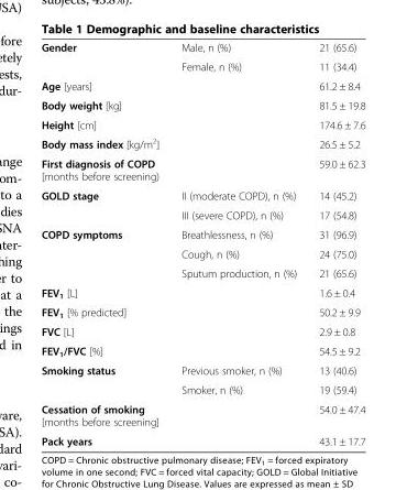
<table><tbody><tr><td rowspan="2">Gender</td><td>Male, n (%)</td><td>21 (65.6)</td></tr><tr><td>Female, n (%)</td><td>11 (34.4)</td></tr><tr><td>Age [years]</td><td></td><td>61.2 ± 8.4</td></tr><tr><td>Body weight [kg]</td><td></td><td>81.5 ± 19.8</td></tr><tr><td>Height [cm]</td><td></td><td>174.6 ± 7.6</td></tr><tr><td>Body mass index [kg/m<sup>2</sup>]</td><td></td><td>26.5 ± 5.2</td></tr><tr><td>First diagnosis of COPD [months before screening)</td><td></td><td>59.0 ± 62.3</td></tr><tr><td rowspan="2">GOLD stage</td><td>II (moderate COPD), n (%)</td><td>14 (45.2)</td></tr><tr><td>III (severe COPD), n (%)</td><td>17 (54.8)</td></tr><tr><td rowspan="3">COPD symptoms</td><td>Breathlessness, n (%)</td><td>31 (96.9)</td></tr><tr><td>Cough, n (%)</td><td>24 (75.0)</td></tr><tr><td>Sputum production, n (%)</td><td>21 (65.6)</td></tr><tr><td>FEV<sub>1</sub> [L]</td><td></td><td>1.6 ± 0.4</td></tr><tr><td>FEV<sub>1</sub> [% predicted]</td><td></td><td>50.2 ± 9.9</td></tr><tr><td>FVC [L]</td><td></td><td>2.9 ± 0.8</td></tr><tr><td>FEV<sub>1</sub>/FVC [%]</td><td></td><td>54.5 ± 9.2</td></tr><tr><td rowspan="2">Smoking status</td><td>Previous smoker, n (%)</td><td>13 (40.6)</td></tr><tr><td>Smoker, n (%)</td><td>19 (59.4)</td></tr><tr><td>Cessation of smoking [months before screening]</td><td></td><td>54.0 ± 47.4</td></tr><tr><td>Pack years</td><td></td><td>43.1 ± 17.7</td></tr></tbody></table>